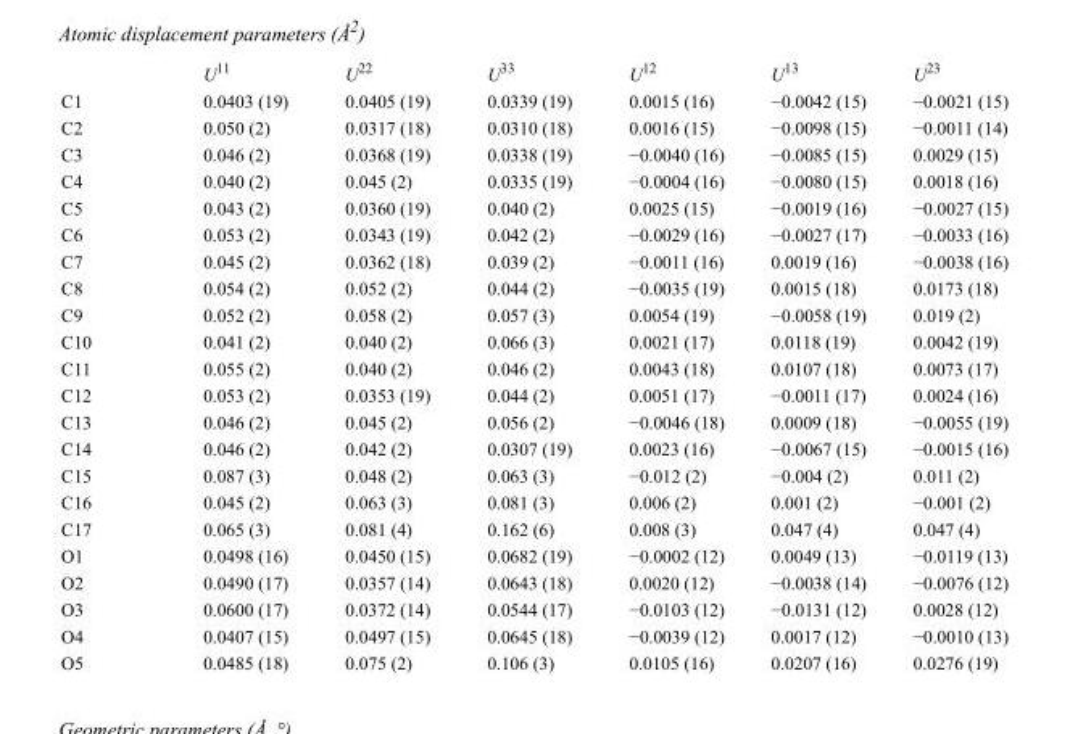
<table><thead><tr><td></td><td>U<sup>11</sup></td><td>U<sup>22</sup></td><td>U<sup>33</sup></td><td>U<sup>12</sup></td><td>U<sup>13</sup></td><td>U<sup>23</sup></td></tr></thead><tbody><tr><td>C1</td><td>0.0403 (19)</td><td>0.0405 (19)</td><td>0.0339 (19)</td><td>0.0015 (16)</td><td>−0.0042 (15)</td><td>−0.0021 (15)</td></tr><tr><td>C2</td><td>0.050 (2)</td><td>0.0317 (18)</td><td>0.0310 (18)</td><td>0.0016 (15)</td><td>−0.0098 (15)</td><td>−0.0011 (14)</td></tr><tr><td>C3</td><td>0.046 (2)</td><td>0.0368 (19)</td><td>0.0338 (19)</td><td>−0.0040 (16)</td><td>−0.0085 (15)</td><td>0.0029 (15)</td></tr><tr><td>C4</td><td>0.040 (2)</td><td>0.045 (2)</td><td>0.0335 (19)</td><td>−0.0004 (16)</td><td>−0.0080 (15)</td><td>0.0018 (16)</td></tr><tr><td>C5</td><td>0.043 (2)</td><td>0.0360 (19)</td><td>0.040 (2)</td><td>0.0025 (15)</td><td>−0.0019 (16)</td><td>−0.0027 (15)</td></tr><tr><td>C6</td><td>0.053 (2)</td><td>0.0343 (19)</td><td>0.042 (2)</td><td>−0.0029 (16)</td><td>−0.0027 (17)</td><td>−0.0033 (16)</td></tr><tr><td>C7</td><td>0.045 (2)</td><td>0.0362 (18)</td><td>0.039 (2)</td><td>−0.0011 (16)</td><td>0.0019 (16)</td><td>−0.0038 (16)</td></tr><tr><td>C8</td><td>0.054 (2)</td><td>0.052 (2)</td><td>0.044 (2)</td><td>−0.0035 (19)</td><td>0.0015 (18)</td><td>0.0173 (18)</td></tr><tr><td>C9</td><td>0.052 (2)</td><td>0.058 (2)</td><td>0.057 (3)</td><td>0.0054 (19)</td><td>−0.0058 (19)</td><td>0.019 (2)</td></tr><tr><td>C10</td><td>0.041 (2)</td><td>0.040 (2)</td><td>0.066 (3)</td><td>0.0021 (17)</td><td>0.0118 (19)</td><td>0.0042 (19)</td></tr><tr><td>C11</td><td>0.055 (2)</td><td>0.040 (2)</td><td>0.046 (2)</td><td>0.0043 (18)</td><td>0.0107 (18)</td><td>0.0073 (17)</td></tr><tr><td>C12</td><td>0.053 (2)</td><td>0.0353 (19)</td><td>0.044 (2)</td><td>0.0051 (17)</td><td>−0.0011 (17)</td><td>0.0024 (16)</td></tr><tr><td>C13</td><td>0.046 (2)</td><td>0.045 (2)</td><td>0.056 (2)</td><td>−0.0046 (18)</td><td>0.0009 (18)</td><td>−0.0055 (19)</td></tr><tr><td>C14</td><td>0.046 (2)</td><td>0.042 (2)</td><td>0.0307 (19)</td><td>0.0023 (16)</td><td>−0.0067 (15)</td><td>−0.0015 (16)</td></tr><tr><td>C15</td><td>0.087 (3)</td><td>0.048 (2)</td><td>0.063 (3)</td><td>−0.012 (2)</td><td>−0.004 (2)</td><td>0.011 (2)</td></tr><tr><td>C16</td><td>0.045 (2)</td><td>0.063 (3)</td><td>0.081 (3)</td><td>0.006 (2)</td><td>0.001 (2)</td><td>−0.001 (2)</td></tr><tr><td>C17</td><td>0.065 (3)</td><td>0.081 (4)</td><td>0.162 (6)</td><td>0.008 (3)</td><td>0.047 (4)</td><td>0.047 (4)</td></tr><tr><td>O1</td><td>0.0498 (16)</td><td>0.0450 (15)</td><td>0.0682 (19)</td><td>−0.0002 (12)</td><td>0.0049 (13)</td><td>−0.0119 (13)</td></tr><tr><td>O2</td><td>0.0490 (17)</td><td>0.0357 (14)</td><td>0.0643 (18)</td><td>0.0020 (12)</td><td>−0.0038 (14)</td><td>−0.0076 (12)</td></tr><tr><td>O3</td><td>0.0600 (17)</td><td>0.0372 (14)</td><td>0.0544 (17)</td><td>−0.0103 (12)</td><td>−0.0131 (12)</td><td>0.0028 (12)</td></tr><tr><td>O4</td><td>0.0407 (15)</td><td>0.0497 (15)</td><td>0.0645 (18)</td><td>−0.0039 (12)</td><td>0.0017 (12)</td><td>−0.0010 (13)</td></tr><tr><td>O5</td><td>0.0485 (18)</td><td>0.075 (2)</td><td>0.106 (3)</td><td>0.0105 (16)</td><td>0.0207 (16)</td><td>0.0276 (19)</td></tr></tbody></table>